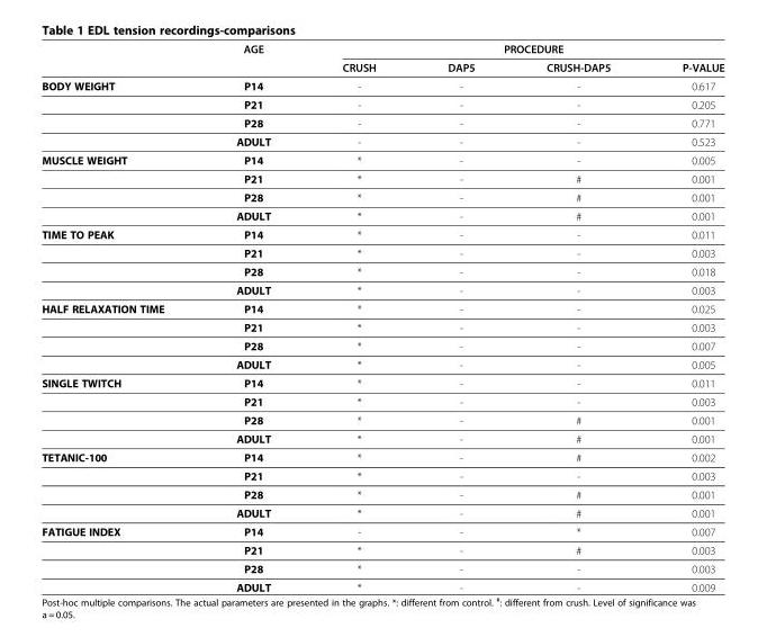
<table><thead><tr><td rowspan="2"></td><td rowspan="2">AGE</td><td colspan="4">PROCEDURE</td></tr><tr><td>CRUSH</td><td>DAP5</td><td>CRUSH-DAP5</td><td>P-VALUE</td></tr></thead><tbody><tr><td rowspan="4">BODY WEIGHT</td><td>P14</td><td>-</td><td>-</td><td>-</td><td>0.617</td></tr><tr><td>P21</td><td>-</td><td>-</td><td>-</td><td>0.205</td></tr><tr><td>P28</td><td>-</td><td>-</td><td>-</td><td>0.771</td></tr><tr><td>ADULT</td><td>-</td><td>-</td><td>-</td><td>0.523</td></tr><tr><td rowspan="4">MUSCLE WEIGHT</td><td>P14</td><td>*</td><td>-</td><td>-</td><td>0.005</td></tr><tr><td>P21</td><td>*</td><td>-</td><td>#</td><td>0.001</td></tr><tr><td>P28</td><td>*</td><td>-</td><td>#</td><td>0.001</td></tr><tr><td>ADULT</td><td>*</td><td>-</td><td>#</td><td>0.001</td></tr><tr><td rowspan="4">TIME TO PEAK</td><td>P14</td><td>*</td><td>-</td><td>-</td><td>0.011</td></tr><tr><td>P21</td><td>*</td><td>-</td><td>-</td><td>0.003</td></tr><tr><td>P28</td><td>*</td><td>-</td><td>-</td><td>0.018</td></tr><tr><td>ADULT</td><td>*</td><td>-</td><td>-</td><td>0.003</td></tr><tr><td rowspan="4">HALF RELAXATION TIME</td><td>P14</td><td>*</td><td>-</td><td>-</td><td>0.025</td></tr><tr><td>P21</td><td>*</td><td>-</td><td>-</td><td>0.003</td></tr><tr><td>P28</td><td>*</td><td>-</td><td>-</td><td>0.007</td></tr><tr><td>ADULT</td><td>*</td><td>-</td><td>-</td><td>0.005</td></tr><tr><td rowspan="4">SINGLE TWITCH</td><td>P14</td><td>*</td><td>-</td><td>-</td><td>0.011</td></tr><tr><td>P21</td><td>*</td><td>-</td><td>-</td><td>0.003</td></tr><tr><td>P28</td><td>*</td><td>-</td><td>#</td><td>0.001</td></tr><tr><td>ADULT</td><td>*</td><td>-</td><td>#</td><td>0.001</td></tr><tr><td rowspan="4">TETANIC-100</td><td>P14</td><td>*</td><td>-</td><td>#</td><td>0.002</td></tr><tr><td>P21</td><td>*</td><td>-</td><td>-</td><td>0.003</td></tr><tr><td>P28</td><td>*</td><td>-</td><td>#</td><td>0.001</td></tr><tr><td>ADULT</td><td>*</td><td>-</td><td>#</td><td>0.001</td></tr><tr><td rowspan="4">FATIGUE INDEX</td><td>P14</td><td>-</td><td>-</td><td>*</td><td>0.007</td></tr><tr><td>P21</td><td>*</td><td>-</td><td>#</td><td>0.003</td></tr><tr><td>P28</td><td>*</td><td>-</td><td>-</td><td>0.003</td></tr><tr><td>ADULT</td><td>*</td><td>-</td><td>-</td><td>0.009</td></tr></tbody></table>